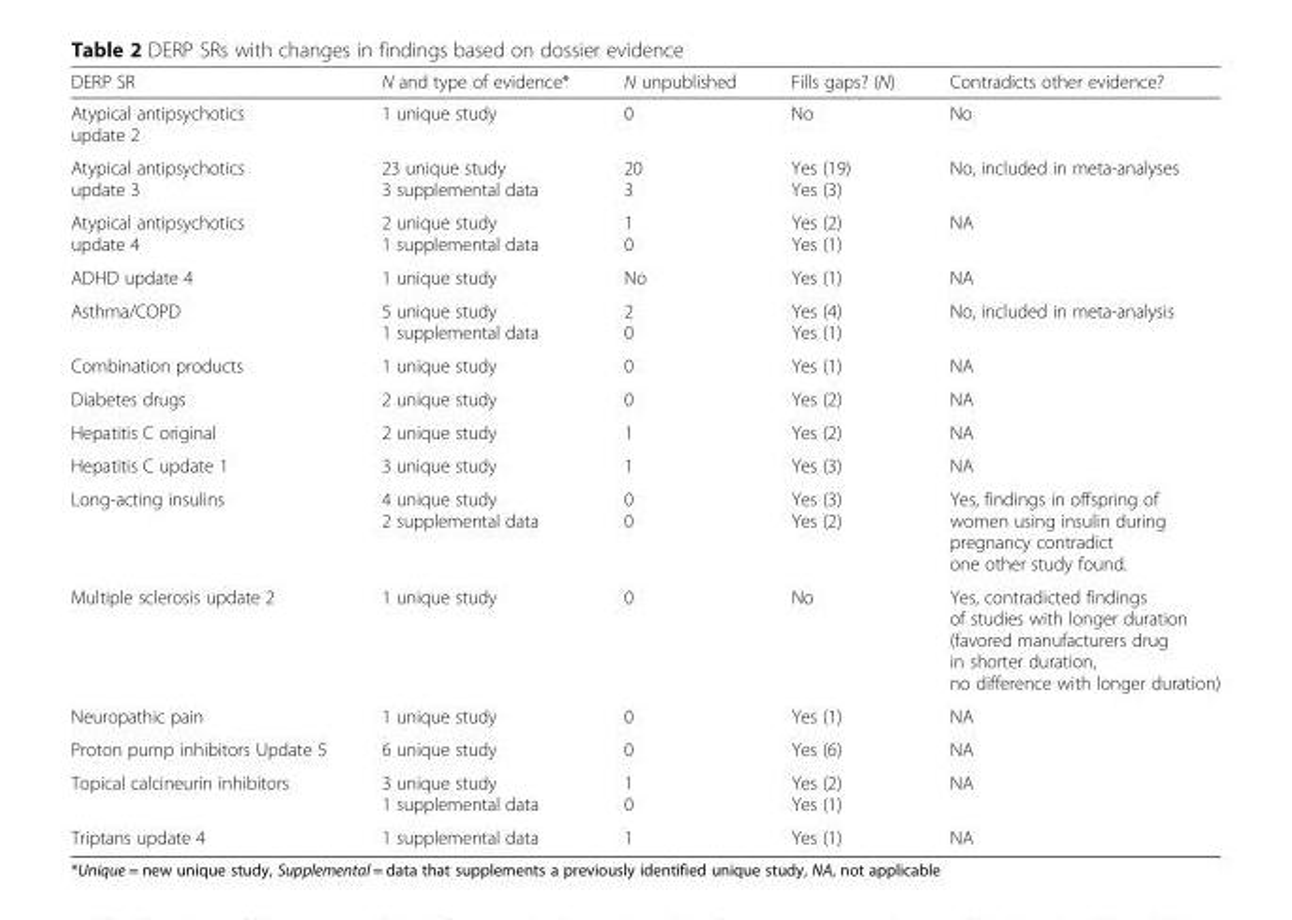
<table><thead><tr><td>DERP SR</td><td>N and type of evidence*</td><td>N unpublished</td><td>Fills gaps? (N)</td><td>Contradicts other evidence?</td></tr></thead><tbody><tr><td>Atypical antipsychotics update 2</td><td>1 unique study</td><td>0</td><td>No</td><td>No</td></tr><tr><td>Atypical antipsychotics update 3</td><td>23 unique study 3 supplemental data</td><td>20 3</td><td>Yes (19) Yes (3)</td><td>No, included in meta-analyses</td></tr><tr><td>Atypical antipsychotics update 4</td><td>2 unique study 1 supplemental data</td><td>1 0</td><td>Yes (2) Yes (1)</td><td>NA</td></tr><tr><td>ADHD update 4</td><td>1 unique study</td><td>No</td><td>Yes (1)</td><td>NA</td></tr><tr><td>Asthma/COPD</td><td>5 unique study 1 supplemental data</td><td>2 0</td><td>Yes (4) Yes (1)</td><td>No, included in meta-analysis</td></tr><tr><td>Combination products</td><td>1 unique study</td><td>0</td><td>Yes (1)</td><td>NA</td></tr><tr><td>Diabetes drugs</td><td>2 unique study</td><td>0</td><td>Yes (2)</td><td>NA</td></tr><tr><td>Hepatitis C original</td><td>2 unique study</td><td>1</td><td>Yes (2)</td><td>NA</td></tr><tr><td>Hepatitis C update 1</td><td>3 unique study</td><td>1</td><td>Yes (3)</td><td>NA</td></tr><tr><td>Long-acting insulins</td><td>4 unique study 2 supplemental data</td><td>0 0</td><td>Yes (3) Yes (2)</td><td>Yes, findings in offspring of women using insulin during pregnancy contradict one other study found.</td></tr><tr><td>Multiple sclerosis update 2</td><td>1 unique study</td><td>0</td><td>No</td><td>Yes, contradicted findings of studies with longer duration (favored manufacturers drug in shorter duration, no difference with longer duration)</td></tr><tr><td>Neuropathic pain</td><td>1 unique study</td><td>0</td><td>Yes (1)</td><td>NA</td></tr><tr><td>Proton pump inhibitors Update 5</td><td>6 unique study</td><td>0</td><td>Yes (6)</td><td>NA</td></tr><tr><td>Topical calcineurin inhibitors</td><td>3 unique study 1 supplemental data</td><td>1 0</td><td>Yes (2) Yes (1)</td><td>NA</td></tr><tr><td>Triptans update 4</td><td>1 supplemental data</td><td>1</td><td>Yes (1)</td><td>NA</td></tr></tbody></table>